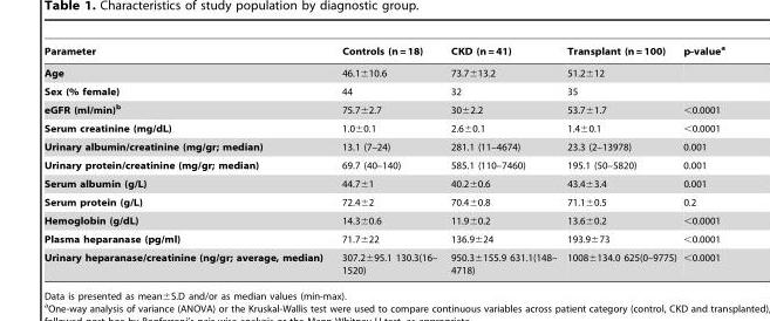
<table><thead><tr><td>Parameter</td><td>Controls (n = 18)</td><td>CKD (n = 41)</td><td>Transplant (n = 100)</td><td>p-value<sup>a</sup></td></tr></thead><tbody><tr><td>Age</td><td>46.1±10.6</td><td>73.7±13.2</td><td>51.2±12</td><td></td></tr><tr><td>Sex (% female)</td><td>44</td><td>32</td><td>35</td><td></td></tr><tr><td>eGFR (ml/min)b</td><td>75.7±2.7</td><td>30±2.2</td><td>53.7±1.7</td><td>&lt;0.0001</td></tr><tr><td>Serum creatinine (mg/dL)</td><td>1.0±0.1</td><td>2.6±0.1</td><td>1.4±0.1</td><td>&lt;0.0001</td></tr><tr><td>Urinary albumin/creatinine (mg/gr; median)</td><td>13.1 (7–24)</td><td>281.1 (11–4674)</td><td>23.3 (2–13978)</td><td>0.001</td></tr><tr><td>Urinary protein/creatinine (mg/gr; median)</td><td>69.7 (40–140)</td><td>585.1 (110–7460)</td><td>195.1 (50–5820)</td><td>0.001</td></tr><tr><td>Serum albumin (g/L)</td><td>44.7±1</td><td>40.2±0.6</td><td>43.4±3.4</td><td>0.001</td></tr><tr><td>Serum protein (g/L)</td><td>72.4±2</td><td>70.4±0.8</td><td>71.1±0.5</td><td>0.2</td></tr><tr><td>Hemoglobin (g/dL)</td><td>14.3±0.6</td><td>11.9±0.2</td><td>13.6±0.2</td><td>&lt;0.0001</td></tr><tr><td>Plasma heparanase (pg/ml)</td><td>71.7±22</td><td>136.9±24</td><td>193.9±73</td><td>&lt;0.0001</td></tr><tr><td>Urinary heparanase/creatinine (ng/gr; average, median)</td><td>307.2±95.1 130.3(16– 1520)</td><td>950.3±155.9 631.1(148– 4718)</td><td>1008±134.0 625(0–9775)</td><td>&lt;0.0001</td></tr></tbody></table>